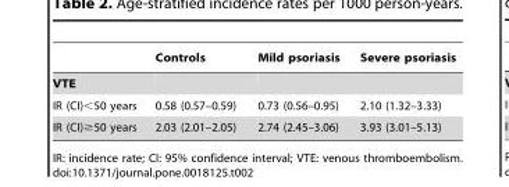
<table><thead><tr><td></td><td>Controls</td><td>Mild psoriasis</td><td>Severe psoriasis</td></tr></thead><tbody><tr><td colspan="4">VTE</td></tr><tr><td>IR (CI)&lt;50 years</td><td>0.58 (0.57–0.59)</td><td>0.73 (0.56–0.95)</td><td>2.10 (1.32–3.33)</td></tr><tr><td>IR (CI)≥50 years</td><td>2.03 (2.01–2.05)</td><td>2.74 (2.45–3.06)</td><td>3.93 (3.01–5.13)</td></tr></tbody></table>